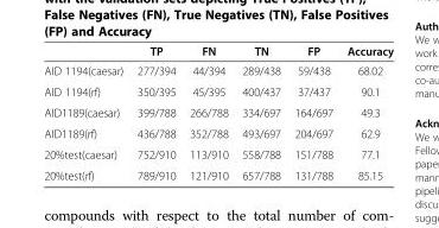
<table><thead><tr><td></td><td>TP</td><td>FN</td><td>TN</td><td>FP</td><td>Accuracy</td></tr></thead><tbody><tr><td>AID 1194(caesar)</td><td>277/394</td><td>44/394</td><td>289/438</td><td>59/438</td><td>68.02</td></tr><tr><td>AID 1194(rf)</td><td>350/395</td><td>45/395</td><td>400/437</td><td>37/437</td><td>90.1</td></tr><tr><td>AID1189(caesar)</td><td>399/788</td><td>266/788</td><td>334/697</td><td>164/697</td><td>49.3</td></tr><tr><td>AID1189(rf)</td><td>436/788</td><td>352/788</td><td>493/697</td><td>204/697</td><td>62.9</td></tr><tr><td>20%test(caesar)</td><td>752/910</td><td>113/910</td><td>558/788</td><td>151/788</td><td>77.1</td></tr><tr><td>20%test(rf)</td><td>789/910</td><td>121/910</td><td>657/788</td><td>131/788</td><td>85.15</td></tr></tbody></table>